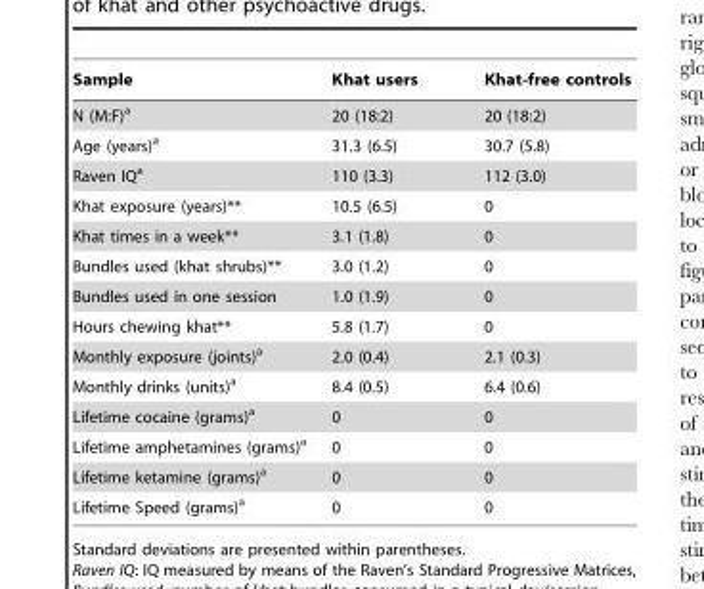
<table><thead><tr><td>Sample</td><td>Khat users</td><td>Khat-free controls</td></tr></thead><tbody><tr><td>N (M:F)<sup>a</sup></td><td>20 (18:2)</td><td>20 (18:2)</td></tr><tr><td>Age (years)<sup>a</sup></td><td>31.3 (6.5)</td><td>30.7 (5.8)</td></tr><tr><td>Raven IQ<sup>a</sup></td><td>110 (3.3)</td><td>112 (3.0)</td></tr><tr><td>Khat exposure (years)**</td><td>10.5 (6.5)</td><td>0</td></tr><tr><td>Khat times in a week**</td><td>3.1 (1.8)</td><td>0</td></tr><tr><td>Bundles used (khat shrubs)**</td><td>3.0 (1.2)</td><td>0</td></tr><tr><td>Bundles used in one session</td><td>1.0 (1.9)</td><td>0</td></tr><tr><td>Hours chewing khat**</td><td>5.8 (1.7)</td><td>0</td></tr><tr><td>Monthly exposure (joints)<sup>a</sup></td><td>2.0 (0.4)</td><td>2.1 (0.3)</td></tr><tr><td>Monthly drinks (units)<sup>a</sup></td><td>8.4 (0.5)</td><td>6.4 (0.6)</td></tr><tr><td>Lifetime cocaine (grams)<sup>a</sup></td><td>0</td><td>0</td></tr><tr><td>Lifetime amphetamines (grams)<sup>a</sup></td><td>0</td><td>0</td></tr><tr><td>Lifetime ketamine (grams)<sup>a</sup></td><td>0</td><td>0</td></tr><tr><td>Lifetime Speed (grams)<sup>a</sup></td><td>0</td><td>0</td></tr></tbody></table>